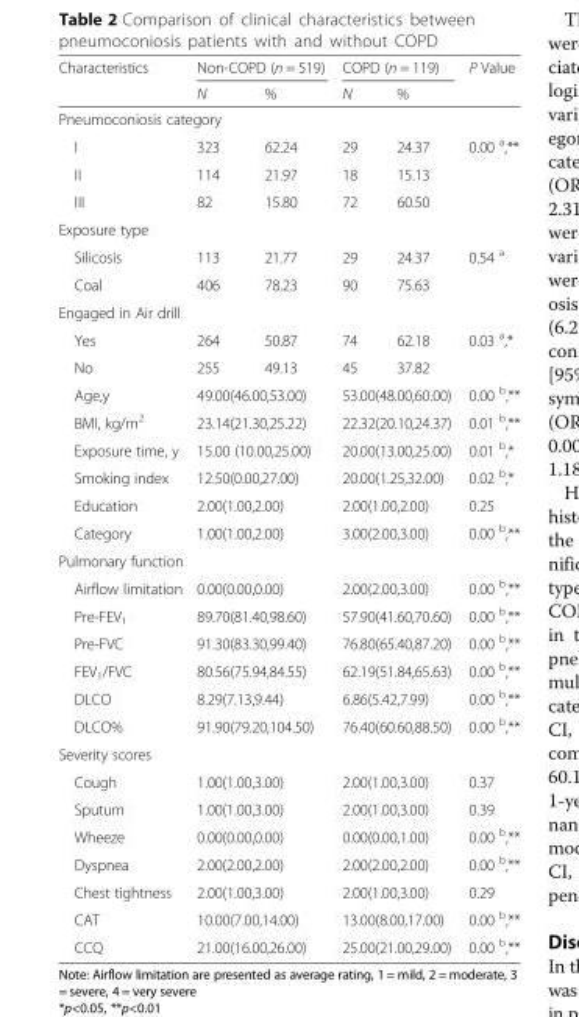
<table><thead><tr><td rowspan="2">Characteristics</td><td colspan="2">Non-COPD (n = 519)</td><td colspan="2">COPD (n = 119)</td><td rowspan="2">P Value</td></tr><tr><td>N</td><td>%</td><td>N</td><td>%</td></tr></thead><tbody><tr><td colspan="6">Pneumoconiosis category</td></tr><tr><td>I</td><td>323</td><td>62.24</td><td>29</td><td>24.37</td><td rowspan="3">0.00 <sup>a</sup>,**</td></tr><tr><td>II</td><td>114</td><td>21.97</td><td>18</td><td>15.13</td></tr><tr><td>III</td><td>82</td><td>15.80</td><td>72</td><td>60.50</td></tr><tr><td colspan="6">Exposure type</td></tr><tr><td>Silicosis</td><td>113</td><td>21.77</td><td>29</td><td>24.37</td><td rowspan="2">0.54 <sup>a</sup></td></tr><tr><td>Coal</td><td>406</td><td>78.23</td><td>90</td><td>75.63</td></tr><tr><td colspan="6">Engaged in Air drill</td></tr><tr><td>Yes</td><td>264</td><td>50.87</td><td>74</td><td>62.18</td><td rowspan="2">0.03 <sup>a</sup>,*</td></tr><tr><td>No</td><td>255</td><td>49.13</td><td>45</td><td>37.82</td></tr><tr><td>Age,y</td><td colspan="2">49.00(46.00,53.00)</td><td colspan="2">53.00(48.00,60.00)</td><td>0.00 <sup>b</sup>,**</td></tr><tr><td>BMI, kg/m<sup>2</sup></td><td colspan="2">23.14(21.30,25.22)</td><td colspan="2">22.32(20.10,24.37)</td><td>0.01 <sup>b</sup>,**</td></tr><tr><td>Exposure time, y</td><td colspan="2">15.00 (10.00,25.00)</td><td colspan="2">20.00(13.00,25.00)</td><td>0.01 <sup>b</sup>,*</td></tr><tr><td>Smoking index</td><td colspan="2">12.50(0.00,27.00)</td><td colspan="2">20.00(1.25,32.00)</td><td>0.02 <sup>b</sup>,*</td></tr><tr><td>Education</td><td colspan="2">2.00(1.00,2.00)</td><td colspan="2">2.00(1.00,2.00)</td><td>0.25</td></tr><tr><td>Category</td><td colspan="2">1.00(1.00,2.00)</td><td colspan="2">3.00(2.00,3.00)</td><td>0.00 <sup>b</sup>,**</td></tr><tr><td colspan="6">Pulmonary function</td></tr><tr><td>Airflow limitation</td><td colspan="2">0.00(0.00,0.00)</td><td colspan="2">2.00(2.00,3.00)</td><td>0.00 <sup>b</sup>,**</td></tr><tr><td>Pre-FEV<sub>1</sub></td><td colspan="2">89.70(81.40,98.60)</td><td colspan="2">57.90(41.60,70.60)</td><td>0.00 <sup>b</sup>,**</td></tr><tr><td>Pre-FVC</td><td colspan="2">91.30(83.30,99.40)</td><td colspan="2">76.80(65.40,87.20)</td><td>0.00 <sup>b</sup>,**</td></tr><tr><td>FEV<sub>1</sub>/FVC</td><td colspan="2">80.56(75.94,84.55)</td><td colspan="2">62.19(51.84,65.63)</td><td>0.00 <sup>b</sup>,**</td></tr><tr><td>DLCO</td><td colspan="2">8.29(7.13,9.44)</td><td colspan="2">6.86(5.42,7.99)</td><td>0.00 <sup>b</sup>,**</td></tr><tr><td>DLCO%</td><td colspan="2">91.90(79.20,104.50)</td><td colspan="2">76.40(60.60,88.50)</td><td>0.00 <sup>b</sup>,**</td></tr><tr><td colspan="6">Severity scores</td></tr><tr><td>Cough</td><td colspan="2">1.00(1.00,3.00)</td><td colspan="2">2.00(1.00,3.00)</td><td>0.37</td></tr><tr><td>Sputum</td><td colspan="2">1.00(1.00,3.00)</td><td colspan="2">2.00(1.00,3.00)</td><td>0.39</td></tr><tr><td>Wheeze</td><td colspan="2">0.00(0.00,0.00)</td><td colspan="2">0.00(0.00,1.00)</td><td>0.00 <sup>b</sup>,**</td></tr><tr><td>Dyspnea</td><td colspan="2">2.00(2.00,2.00)</td><td colspan="2">2.00(2.00,2.00)</td><td>0.00 <sup>b</sup>,**</td></tr><tr><td>Chest tightness</td><td colspan="2">2.00(1.00,3.00)</td><td colspan="2">2.00(1.00,3.00)</td><td>0.29</td></tr><tr><td>CAT</td><td colspan="2">10.00(7.00,14.00)</td><td colspan="2">13.00(8.00,17.00)</td><td>0.00 <sup>b</sup>,**</td></tr><tr><td>CCQ</td><td colspan="2">21.00(16.00,26.00)</td><td colspan="2">25.00(21.00,29.00)</td><td>0.00 <sup>b</sup>,**</td></tr></tbody></table>